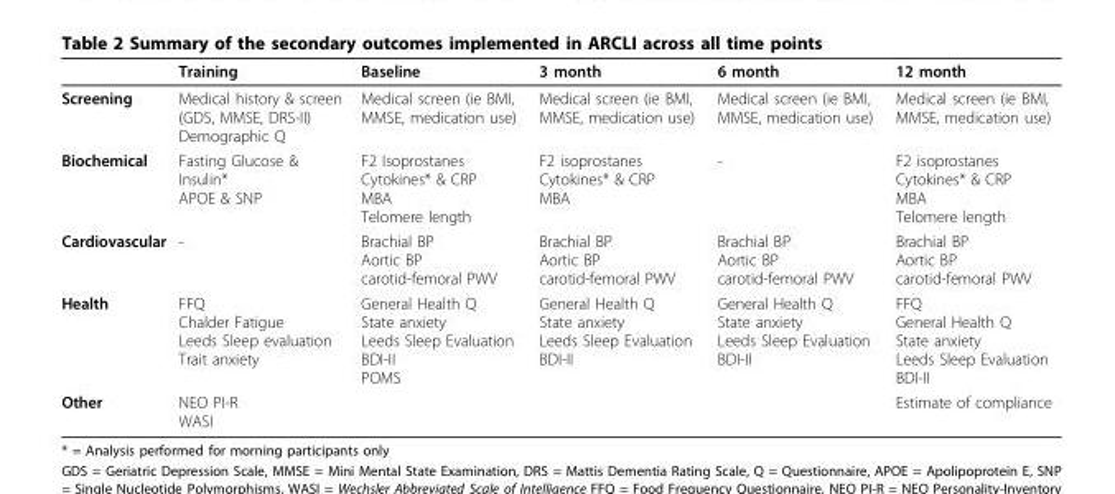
<table><thead><tr><td></td><td>Training</td><td>Baseline</td><td>3 month</td><td>6 month</td><td>12 month</td></tr></thead><tbody><tr><td>Screening</td><td>Medical history &amp; screen (GDS, MMSE, DRS-II) Demographic Q</td><td>Medical screen (ie BMI, MMSE, medication use)</td><td>Medical screen (ie BMI, MMSE, medication use)</td><td>Medical screen (ie BMI, MMSE, medication use)</td><td>Medical screen (ie BMI, MMSE, medication use)</td></tr><tr><td>Biochemical</td><td>Fasting Glucose &amp; Insulin* APOE &amp; SNP</td><td>F2 Isoprostanes Cytokines* &amp; CRP MBA Telomere length</td><td>F2 isoprostanes Cytokines* &amp; CRP MBA</td><td>-</td><td>F2 isoprostanes Cytokines* &amp; CRP MBA Telomere length</td></tr><tr><td>Cardiovascular</td><td>-</td><td>Brachial BP Aortic BP carotid-femoral PWV</td><td>Brachial BP Aortic BP carotid-femoral PWV</td><td>Brachial BP Aortic BP carotid-femoral PWV</td><td>Brachial BP Aortic BP carotid-femoral PWV</td></tr><tr><td>Health</td><td>FFQ Chalder Fatigue Leeds Sleep evaluation Trait anxiety</td><td>General Health Q State anxiety Leeds Sleep Evaluation BDI-II POMS</td><td>General Health Q State anxiety Leeds Sleep Evaluation BDI-II</td><td>General Health Q State anxiety Leeds Sleep Evaluation BDI-II</td><td>FFQ General Health Q State anxiety Leeds Sleep Evaluation BDI-II</td></tr><tr><td>Other</td><td>NEO PI-R WASI</td><td></td><td></td><td></td><td>Estimate of compliance</td></tr></tbody></table>